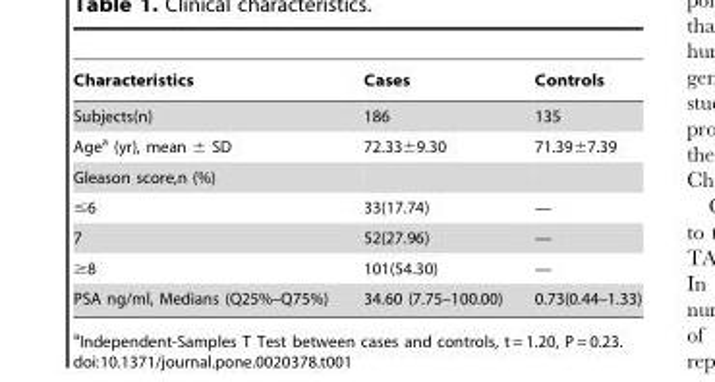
<table><thead><tr><td>Characteristics</td><td>Cases</td><td>Controls</td></tr></thead><tbody><tr><td>Subjects(n)</td><td>186</td><td>135</td></tr><tr><td>Age<sup>a</sup> (yr), mean ± SD</td><td>72.33±9.30</td><td>71.39±7.39</td></tr><tr><td colspan="3">Gleason score,n (%)</td></tr><tr><td>≤6</td><td>33(17.74)</td><td>—</td></tr><tr><td>7</td><td>52(27.96)</td><td>—</td></tr><tr><td>≥8</td><td>101(54.30)</td><td>—</td></tr><tr><td>PSA ng/ml, Medians (Q25%–Q75%)</td><td>34.60 (7.75–100.00)</td><td>0.73(0.44–1.33)</td></tr></tbody></table>